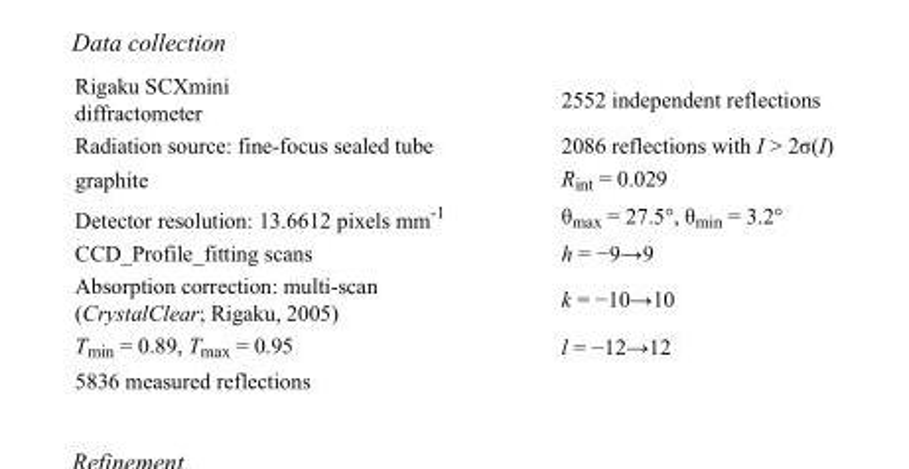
<table><tbody><tr><td>Rigaku SCXmini diffractometer</td><td>2552 independent reflections</td></tr><tr><td>Radiation source: fine-focus sealed tube</td><td>2086 reflections with I &gt; 2σ(I)</td></tr><tr><td>graphite</td><td>R<sub>int</sub> = 0.029</td></tr><tr><td>Detector resolution: 13.6612 pixels mm<sup>-1</sup></td><td>θ<sub>max</sub> = 27.5°, θ<sub>min</sub> = 3.2°</td></tr><tr><td>CCD_Profile_fitting scans</td><td>h = −9→9</td></tr><tr><td>Absorption correction: multi-scan (CrystalClear; Rigaku, 2005)</td><td>k = −10→10</td></tr><tr><td>T<sub>min</sub> = 0.89, T<sub>max</sub> = 0.95</td><td>l = −12→12</td></tr><tr><td>5836 measured reflections</td><td></td></tr></tbody></table>